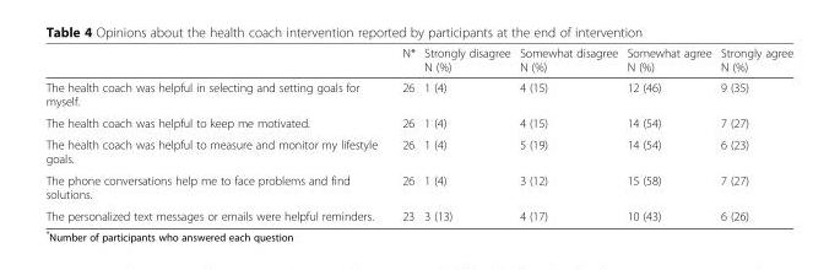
<table><thead><tr><td></td><td>N*</td><td>Strongly disagree N (%)</td><td>Somewhat disagree N (%)</td><td>Somewhat agree N (%)</td><td>Strongly agree N (%)</td></tr></thead><tbody><tr><td>The health coach was helpful in selecting and setting goals for myself.</td><td>26</td><td>1 (4)</td><td>4 (15)</td><td>12 (46)</td><td>9 (35)</td></tr><tr><td>The health coach was helpful to keep me motivated.</td><td>26</td><td>1 (4)</td><td>4 (15)</td><td>14 (54)</td><td>7 (27)</td></tr><tr><td>The health coach was helpful to measure and monitor my lifestyle goals.</td><td>26</td><td>1 (4)</td><td>5 (19)</td><td>14 (54)</td><td>6 (23)</td></tr><tr><td>The phone conversations help me to face problems and find solutions.</td><td>26</td><td>1 (4)</td><td>3 (12)</td><td>15 (58)</td><td>7 (27)</td></tr><tr><td>The personalized text messages or emails were helpful reminders.</td><td>23</td><td>3 (13)</td><td>4 (17)</td><td>10 (43)</td><td>6 (26)</td></tr></tbody></table>